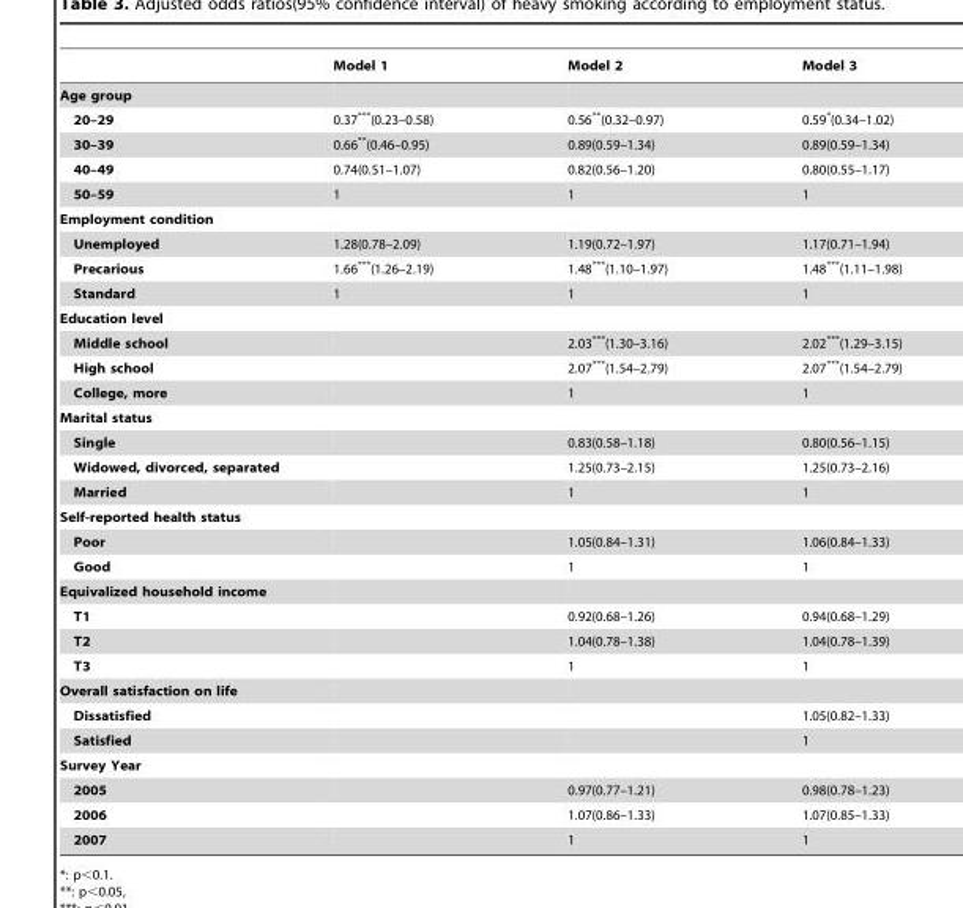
<table><thead><tr><td></td><td>Model 1</td><td>Model 2</td><td>Model 3</td></tr></thead><tbody><tr><td colspan="4">Age group</td></tr><tr><td>20–29</td><td>0.37***(0.23–0.58)</td><td>0.56**(0.32–0.97)</td><td>0.59*(0.34–1.02)</td></tr><tr><td>30–39</td><td>0.66**(0.46–0.95)</td><td>0.89(0.59–1.34)</td><td>0.89(0.59–1.34)</td></tr><tr><td>40–49</td><td>0.74(0.51–1.07)</td><td>0.82(0.56–1.20)</td><td>0.80(0.55–1.17)</td></tr><tr><td>50–59</td><td>1</td><td>1</td><td>1</td></tr><tr><td colspan="4">Employment condition</td></tr><tr><td>Unemployed</td><td>1.28(0.78–2.09)</td><td>1.19(0.72–1.97)</td><td>1.17(0.71–1.94)</td></tr><tr><td>Precarious</td><td>1.66***(1.26–2.19)</td><td>1.48***(1.10–1.97)</td><td>1.48***(1.11–1.98)</td></tr><tr><td>Standard</td><td>1</td><td>1</td><td>1</td></tr><tr><td colspan="4">Education level</td></tr><tr><td>Middle school</td><td></td><td>2.03***(1.30–3.16)</td><td>2.02***(1.29–3.15)</td></tr><tr><td>High school</td><td></td><td>2.07***(1.54–2.79)</td><td>2.07***(1.54–2.79)</td></tr><tr><td>College, more</td><td></td><td>1</td><td>1</td></tr><tr><td colspan="4">Marital status</td></tr><tr><td>Single</td><td></td><td>0.83(0.58–1.18)</td><td>0.80(0.56–1.15)</td></tr><tr><td>Widowed, divorced, separated</td><td></td><td>1.25(0.73–2.15)</td><td>1.25(0.73–2.16)</td></tr><tr><td>Married</td><td></td><td>1</td><td>1</td></tr><tr><td colspan="4">Self-reported health status</td></tr><tr><td>Poor</td><td></td><td>1.05(0.84–1.31)</td><td>1.06(0.84–1.33)</td></tr><tr><td>Good</td><td></td><td>1</td><td>1</td></tr><tr><td colspan="4">Equivalized household income</td></tr><tr><td>T1</td><td></td><td>0.92(0.68–1.26)</td><td>0.94(0.68–1.29)</td></tr><tr><td>T2</td><td></td><td>1.04(0.78–1.38)</td><td>1.04(0.78–1.39)</td></tr><tr><td>T3</td><td></td><td>1</td><td>1</td></tr><tr><td colspan="4">Overall satisfaction on life</td></tr><tr><td>Dissatisfied</td><td></td><td></td><td>1.05(0.82–1.33)</td></tr><tr><td>Satisfied</td><td></td><td></td><td>1</td></tr><tr><td colspan="4">Survey Year</td></tr><tr><td>2005</td><td></td><td>0.97(0.77–1.21)</td><td>0.98(0.78–1.23)</td></tr><tr><td>2006</td><td></td><td>1.07(0.86–1.33)</td><td>1.07(0.85–1.33)</td></tr><tr><td>2007</td><td></td><td>1</td><td>1</td></tr></tbody></table>